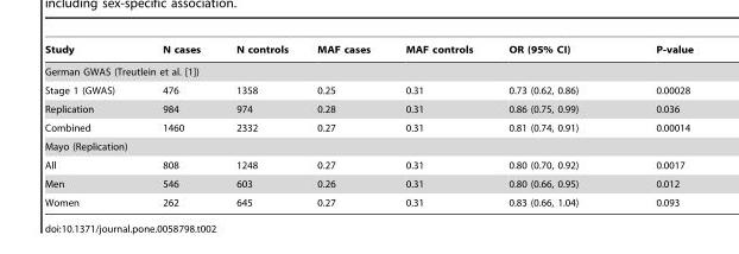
<table><thead><tr><td>Study</td><td>N cases</td><td>N controls</td><td>MAF cases</td><td>MAF controls</td><td>OR (95% CI)</td><td>P-value</td></tr></thead><tbody><tr><td colspan="7">German GWAS (Treutlein et al. [1])</td></tr><tr><td>Stage 1 (GWAS)</td><td>476</td><td>1358</td><td>0.25</td><td>0.31</td><td>0.73 (0.62, 0.86)</td><td>0.00028</td></tr><tr><td>Replication</td><td>984</td><td>974</td><td>0.28</td><td>0.31</td><td>0.86 (0.75, 0.99)</td><td>0.036</td></tr><tr><td>Combined</td><td>1460</td><td>2332</td><td>0.27</td><td>0.31</td><td>0.81 (0.74, 0.91)</td><td>0.00014</td></tr><tr><td colspan="7">Mayo (Replication)</td></tr><tr><td>All</td><td>808</td><td>1248</td><td>0.27</td><td>0.31</td><td>0.80 (0.70, 0.92)</td><td>0.0017</td></tr><tr><td>Men</td><td>546</td><td>603</td><td>0.26</td><td>0.31</td><td>0.80 (0.66, 0.95)</td><td>0.012</td></tr><tr><td>Women</td><td>262</td><td>645</td><td>0.27</td><td>0.31</td><td>0.83 (0.66, 1.04)</td><td>0.093</td></tr></tbody></table>